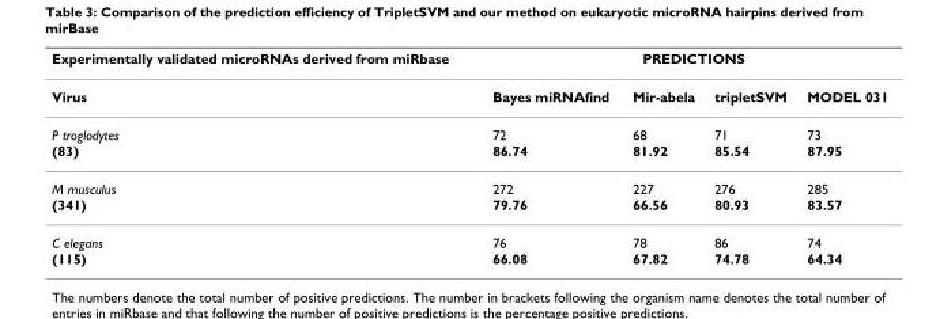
<table><thead><tr><td rowspan="2">Experimentally validated microRNAs derived from miRbase Virus</td><td colspan="4">PREDICTIONS</td></tr><tr><td>Bayes miRNAfind</td><td>Mir-abela</td><td>tripletSVM</td><td>MODEL 031</td></tr></thead><tbody><tr><td>P troglodytes (83)</td><td>72 86.74</td><td>68 81.92</td><td>71 85.54</td><td>73 87.95</td></tr><tr><td>M musculus (341)</td><td>272 79.76</td><td>227 66.56</td><td>276 80.93</td><td>285 83.57</td></tr><tr><td>C elegans (115)</td><td>76 66.08</td><td>78 67.82</td><td>86 74.78</td><td>74 64.34</td></tr></tbody></table>